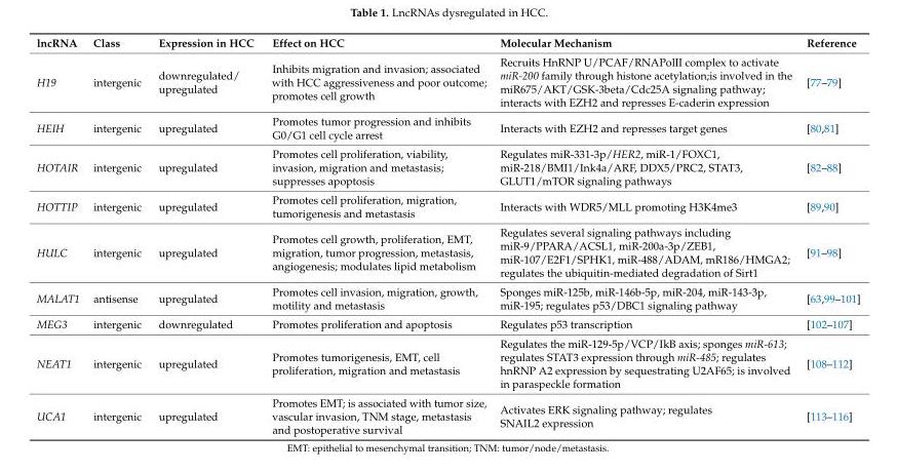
<table><thead><tr><td>lncRNA</td><td>Class</td><td>Expression in HCC</td><td>Effect on HCC</td><td>Molecular Mechanism</td><td>Reference</td></tr></thead><tbody><tr><td>H19</td><td>intergenic</td><td>downregulated/ upregulated</td><td>Inhibits migration and invasion; associated with HCC aggressiveness and poor outcome; promotes cell growth</td><td>Recruits HnRNP U/PCAF/RNAPolII complex to activate miR-200 family through histone acetylation;is involved in the miR675/AKT/GSK-3beta/Cdc25A signaling pathway; interacts with EZH2 and represses E-caderin expression</td><td>[77–79]</td></tr><tr><td>HEIH</td><td>intergenic</td><td>upregulated</td><td>Promotes tumor progression and inhibits G0/G1 cell cycle arrest</td><td>Interacts with EZH2 and represses target genes</td><td>[80,81]</td></tr><tr><td>HOTAIR</td><td>intergenic</td><td>upregulated</td><td>Promotes cell proliferation, viability, invasion, migration and metastasis; suppresses apoptosis</td><td>Regulates miR-331-3p/HER2, miR-1/FOXC1, miR-218/BMI1/Ink4a/ARF, DDX5/PRC2, STAT3, GLUT1/mTOR signaling pathways</td><td>[82–88]</td></tr><tr><td>HOTTIP</td><td>intergenic</td><td>upregulated</td><td>Promotes cell proliferation, migration, tumorigenesis and metastasis</td><td>Interacts with WDR5/MLL promoting H3K4me3</td><td>[89,90]</td></tr><tr><td>HULC</td><td>intergenic</td><td>upregulated</td><td>Promotes cell growth, proliferation, EMT, migration, tumor progression, metastasis, angiogenesis; modulates lipid metabolism</td><td>Regulates several signaling pathways including miR-9/PPARA/ACSL1, miR-200a-3p/ZEB1, miR-107/E2F1/SPHK1, miR-488/ADAM, mR186/HMGA2; regulates the ubiquitin-mediated degradation of Sirt1</td><td>[91–98]</td></tr><tr><td>MALAT1</td><td>antisense</td><td>upregulated</td><td>Promotes cell invasion, migration, growth, motility and metastasis</td><td>Sponges miR-125b, miR-146b-5p, miR-204, miR-143-3p, miR-195; regulates p53/DBC1 signaling pathway</td><td>[63,99–101]</td></tr><tr><td>MEG3</td><td>intergenic</td><td>downregulated</td><td>Promotes proliferation and apoptosis</td><td>Regulates p53 transcription</td><td>[102–107]</td></tr><tr><td>NEAT1</td><td>intergenic</td><td>upregulated</td><td>Promotes tumorigenesis, EMT, cell proliferation, migration and metastasis</td><td>Regulates the miR-129-5p/VCP/IkB axis; sponges miR-613; regulates STAT3 expression through miR-485; regulates hnRNP A2 expression by sequestrating U2AF65; is involved in paraspeckle formation</td><td>[108–112]</td></tr><tr><td>UCA1</td><td>intergenic</td><td>upregulated</td><td>Promotes EMT; is associated with tumor size, vascular invasion, TNM stage, metastasis and postoperative survival</td><td>Activates ERK signaling pathway; regulates SNAIL2 expression</td><td>[113–116]</td></tr></tbody></table>